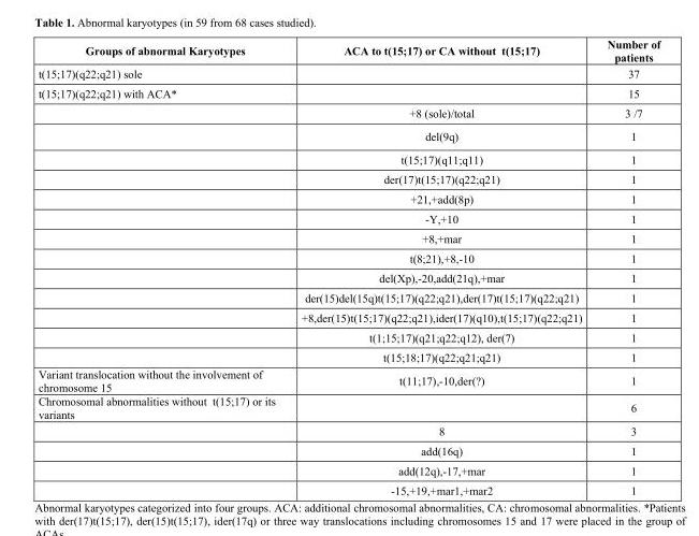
<table><thead><tr><td>Groups of abnormal Karyotypes</td><td>ACA to t(15;17) or CA without t(15;17)</td><td>Number of patients</td></tr></thead><tbody><tr><td>t(15;17)(q22;q21) sole</td><td></td><td>37</td></tr><tr><td rowspan="14">t(15;17)(q22;q21) with ACA*</td><td></td><td>15</td></tr><tr><td>+8 (sole)/total</td><td>3 /7</td></tr><tr><td>del(9q)</td><td>1</td></tr><tr><td>t(15;17)(q11;q11)</td><td>1</td></tr><tr><td>der(17)t(15;17)(q22;q21)</td><td>1</td></tr><tr><td>+21,+add(8p)</td><td>1</td></tr><tr><td>-Y,+10</td><td>1</td></tr><tr><td>+8,+mar</td><td>1</td></tr><tr><td>t(8;21),+8,-10</td><td>1</td></tr><tr><td>del(Xp),-20,add(21q),+mar</td><td>1</td></tr><tr><td>der(15)del(15q)t(15;17)(q22;q21),der(17)t(15;17)(q22;q21)</td><td>1</td></tr><tr><td>+8,der(15)t(15;17)(q22;q21),ider(17)(q10),t(15;17)(q22;q21)</td><td>1</td></tr><tr><td>t(1;15;17)(q21;q22;q12), der(7)</td><td>1</td></tr><tr><td>t(15;18;17)(q22;q21;q21)</td><td>1</td></tr><tr><td>Variant translocation without the involvement of chromosome 15</td><td>t(11;17),-10,der(?)</td><td>1</td></tr><tr><td rowspan="5">Chromosomal abnormalities without t(15;17) or its variants</td><td></td><td>6</td></tr><tr><td>8</td><td>3</td></tr><tr><td>add(16q)</td><td>1</td></tr><tr><td>add(12q),-17,+mar</td><td>1</td></tr><tr><td>-15,+19,+mar1,+mar2</td><td>1</td></tr></tbody></table>